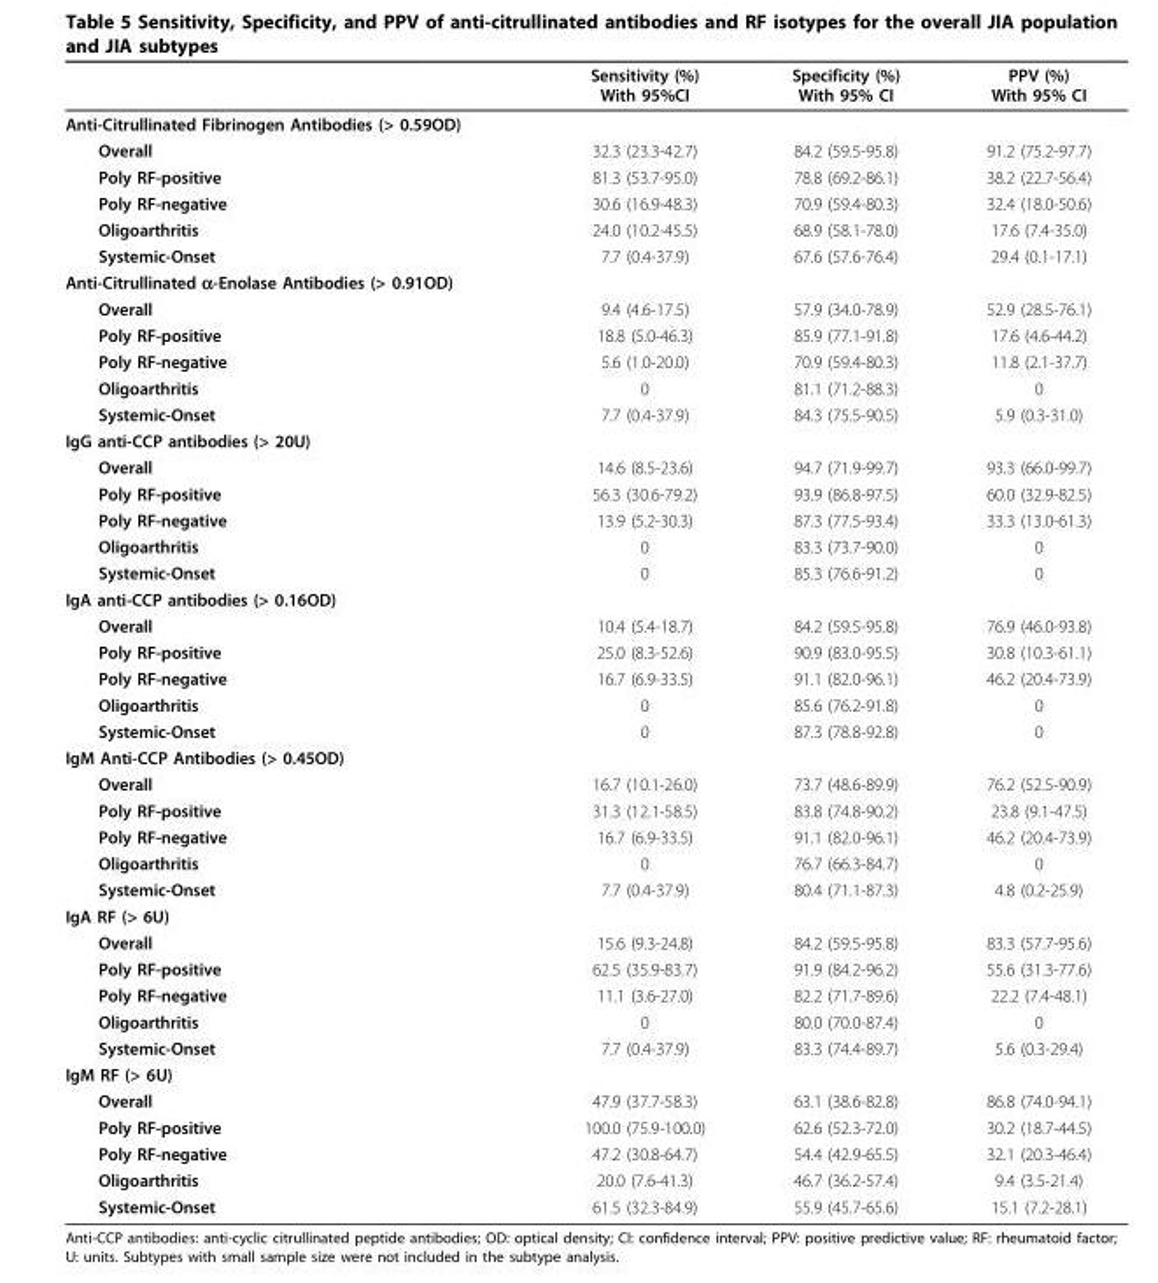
<table><thead><tr><td></td><td>Sensitivity (%) With 95%CI</td><td>Specificity (%) With 95% CI</td><td>PPV (%) With 95% CI</td></tr></thead><tbody><tr><td colspan="4">Anti-Citrullinated Fibrinogen Antibodies (&gt; 0.59OD)</td></tr><tr><td>Overall</td><td>32.3 (23.3-42.7)</td><td>84.2 (59.5-95.8)</td><td>91.2 (75.2-97.7)</td></tr><tr><td>Poly RF-positive</td><td>81.3 (53.7-95.0)</td><td>78.8 (69.2-86.1)</td><td>38.2 (22.7-56.4)</td></tr><tr><td>Poly RF-negative</td><td>30.6 (16.9-48.3)</td><td>70.9 (59.4-80.3)</td><td>32.4 (18.0-50.6)</td></tr><tr><td>Oligoarthritis</td><td>24.0 (10.2-45.5)</td><td>68.9 (58.1-78.0)</td><td>17.6 (7.4-35.0)</td></tr><tr><td>Systemic-Onset</td><td>7.7 (0.4-37.9)</td><td>67.6 (57.6-76.4)</td><td>29.4 (0.1-17.1)</td></tr><tr><td colspan="4">Anti-Citrullinated α-Enolase Antibodies (&gt; 0.91OD)</td></tr><tr><td>Overall</td><td>9.4 (4.6-17.5)</td><td>57.9 (34.0-78.9)</td><td>52.9 (28.5-76.1)</td></tr><tr><td>Poly RF-positive</td><td>18.8 (5.0-46.3)</td><td>85.9 (77.1-91.8)</td><td>17.6 (4.6-44.2)</td></tr><tr><td>Poly RF-negative</td><td>5.6 (1.0-20.0)</td><td>70.9 (59.4-80.3)</td><td>11.8 (2.1-37.7)</td></tr><tr><td>Oligoarthritis</td><td>0</td><td>81.1 (71.2-88.3)</td><td>0</td></tr><tr><td>Systemic-Onset</td><td>7.7 (0.4-37.9)</td><td>84.3 (75.5-90.5)</td><td>5.9 (0.3-31.0)</td></tr><tr><td colspan="4">IgG anti-CCP antibodies (&gt; 20U)</td></tr><tr><td>Overall</td><td>14.6 (8.5-23.6)</td><td>94.7 (71.9-99.7)</td><td>93.3 (66.0-99.7)</td></tr><tr><td>Poly RF-positive</td><td>56.3 (30.6-79.2)</td><td>93.9 (86.8-97.5)</td><td>60.0 (32.9-82.5)</td></tr><tr><td>Poly RF-negative</td><td>13.9 (5.2-30.3)</td><td>87.3 (77.5-93.4)</td><td>33.3 (13.0-61.3)</td></tr><tr><td>Oligoarthritis</td><td>0</td><td>83.3 (73.7-90.0)</td><td>0</td></tr><tr><td>Systemic-Onset</td><td>0</td><td>85.3 (76.6-91.2)</td><td>0</td></tr><tr><td colspan="4">IgA anti-CCP antibodies (&gt; 0.16OD)</td></tr><tr><td>Overall</td><td>10.4 (5.4-18.7)</td><td>84.2 (59.5-95.8)</td><td>76.9 (46.0-93.8)</td></tr><tr><td>Poly RF-positive</td><td>25.0 (8.3-52.6)</td><td>90.9 (83.0-95.5)</td><td>30.8 (10.3-61.1)</td></tr><tr><td>Poly RF-negative</td><td>16.7 (6.9-33.5)</td><td>91.1 (82.0-96.1)</td><td>46.2 (20.4-73.9)</td></tr><tr><td>Oligoarthritis</td><td>0</td><td>85.6 (76.2-91.8)</td><td>0</td></tr><tr><td>Systemic-Onset</td><td>0</td><td>87.3 (78.8-92.8)</td><td>0</td></tr><tr><td colspan="4">IgM Anti-CCP Antibodies (&gt; 0.45OD)</td></tr><tr><td>Overall</td><td>16.7 (10.1-26.0)</td><td>73.7 (48.6-89.9)</td><td>76.2 (52.5-90.9)</td></tr><tr><td>Poly RF-positive</td><td>31.3 (12.1-58.5)</td><td>83.8 (74.8-90.2)</td><td>23.8 (9.1-47.5)</td></tr><tr><td>Poly RF-negative</td><td>16.7 (6.9-33.5)</td><td>91.1 (82.0-96.1)</td><td>46.2 (20.4-73.9)</td></tr><tr><td>Oligoarthritis</td><td>0</td><td>76.7 (66.3-84.7)</td><td>0</td></tr><tr><td>Systemic-Onset</td><td>7.7 (0.4-37.9)</td><td>80.4 (71.1-87.3)</td><td>4.8 (0.2-25.9)</td></tr><tr><td colspan="4">IgA RF (&gt; 6U)</td></tr><tr><td>Overall</td><td>15.6 (9.3-24.8)</td><td>84.2 (59.5-95.8)</td><td>83.3 (57.7-95.6)</td></tr><tr><td>Poly RF-positive</td><td>62.5 (35.9-83.7)</td><td>91.9 (84.2-96.2)</td><td>55.6 (31.3-77.6)</td></tr><tr><td>Poly RF-negative</td><td>11.1 (3.6-27.0)</td><td>82.2 (71.7-89.6)</td><td>22.2 (7.4-48.1)</td></tr><tr><td>Oligoarthritis</td><td>0</td><td>80.0 (70.0-87.4)</td><td>0</td></tr><tr><td>Systemic-Onset</td><td>7.7 (0.4-37.9)</td><td>83.3 (74.4-89.7)</td><td>5.6 (0.3-29.4)</td></tr><tr><td colspan="4">IgM RF (&gt; 6U)</td></tr><tr><td>Overall</td><td>47.9 (37.7-58.3)</td><td>63.1 (38.6-82.8)</td><td>86.8 (74.0-94.1)</td></tr><tr><td>Poly RF-positive</td><td>100.0 (75.9-100.0)</td><td>62.6 (52.3-72.0)</td><td>30.2 (18.7-44.5)</td></tr><tr><td>Poly RF-negative</td><td>47.2 (30.8-64.7)</td><td>54.4 (42.9-65.5)</td><td>32.1 (20.3-46.4)</td></tr><tr><td>Oligoarthritis</td><td>20.0 (7.6-41.3)</td><td>46.7 (36.2-57.4)</td><td>9.4 (3.5-21.4)</td></tr><tr><td>Systemic-Onset</td><td>61.5 (32.3-84.9)</td><td>55.9 (45.7-65.6)</td><td>15.1 (7.2-28.1)</td></tr></tbody></table>